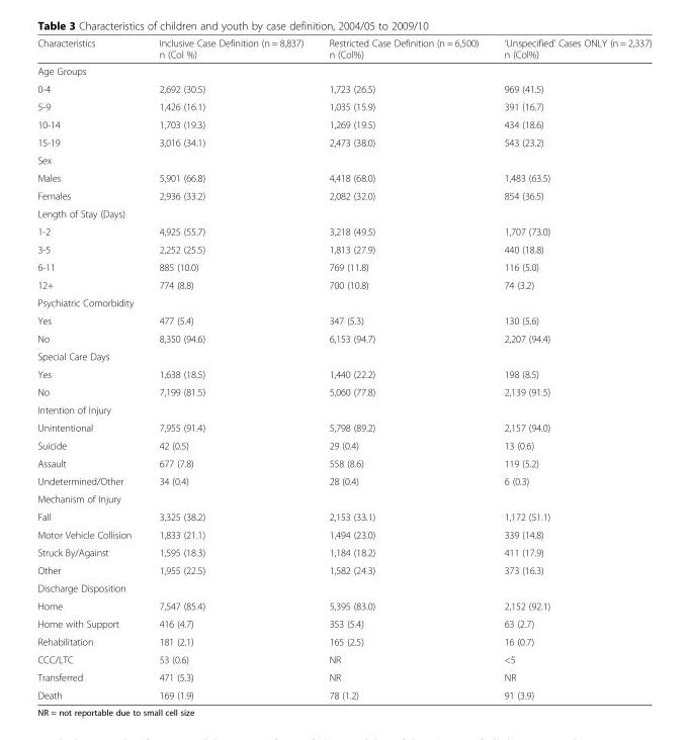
<table><thead><tr><td>Characteristics</td><td>Inclusive Case Definition (n = 8,837) n (Col %)</td><td>Restricted Case Definition (n = 6,500) n (Col%)</td><td>‘Unspecified’ Cases ONLY (n = 2,337) n (Col%)</td></tr></thead><tbody><tr><td colspan="4">Age Groups</td></tr><tr><td>0-4</td><td>2,692 (30.5)</td><td>1,723 (26.5)</td><td>969 (41.5)</td></tr><tr><td>5-9</td><td>1,426 (16.1)</td><td>1,035 (15.9)</td><td>391 (16.7)</td></tr><tr><td>10-14</td><td>1,703 (19.3)</td><td>1,269 (19.5)</td><td>434 (18.6)</td></tr><tr><td>15-19</td><td>3,016 (34.1)</td><td>2,473 (38.0)</td><td>543 (23.2)</td></tr><tr><td colspan="4">Sex</td></tr><tr><td>Males</td><td>5,901 (66.8)</td><td>4,418 (68.0)</td><td>1,483 (63.5)</td></tr><tr><td>Females</td><td>2,936 (33.2)</td><td>2,082 (32.0)</td><td>854 (36.5)</td></tr><tr><td colspan="4">Length of Stay (Days)</td></tr><tr><td>1-2</td><td>4,925 (55.7)</td><td>3,218 (49.5)</td><td>1,707 (73.0)</td></tr><tr><td>3-5</td><td>2,252 (25.5)</td><td>1,813 (27.9)</td><td>440 (18.8)</td></tr><tr><td>6-11</td><td>885 (10.0)</td><td>769 (11.8)</td><td>116 (5.0)</td></tr><tr><td>12+</td><td>774 (8.8)</td><td>700 (10.8)</td><td>74 (3.2)</td></tr><tr><td colspan="4">Psychiatric Comorbidity</td></tr><tr><td>Yes</td><td>477 (5.4)</td><td>347 (5.3)</td><td>130 (5.6)</td></tr><tr><td>No</td><td>8,350 (94.6)</td><td>6,153 (94.7)</td><td>2,207 (94.4)</td></tr><tr><td colspan="4">Special Care Days</td></tr><tr><td>Yes</td><td>1,638 (18.5)</td><td>1,440 (22.2)</td><td>198 (8.5)</td></tr><tr><td>No</td><td>7,199 (81.5)</td><td>5,060 (77.8)</td><td>2,139 (91.5)</td></tr><tr><td colspan="4">Intention of Injury</td></tr><tr><td>Unintentional</td><td>7,955 (91.4)</td><td>5,798 (89.2)</td><td>2,157 (94.0)</td></tr><tr><td>Suicide</td><td>42 (0.5)</td><td>29 (0.4)</td><td>13 (0.6)</td></tr><tr><td>Assault</td><td>677 (7.8)</td><td>558 (8.6)</td><td>119 (5.2)</td></tr><tr><td>Undetermined/Other</td><td>34 (0.4)</td><td>28 (0.4)</td><td>6 (0.3)</td></tr><tr><td colspan="4">Mechanism of Injury</td></tr><tr><td>Fall</td><td>3,325 (38.2)</td><td>2,153 (33.1)</td><td>1,172 (51.1)</td></tr><tr><td>Motor Vehicle Collision</td><td>1,833 (21.1)</td><td>1,494 (23.0)</td><td>339 (14.8)</td></tr><tr><td>Struck By/Against</td><td>1,595 (18.3)</td><td>1,184 (18.2)</td><td>411 (17.9)</td></tr><tr><td>Other</td><td>1,955 (22.5)</td><td>1,582 (24.3)</td><td>373 (16.3)</td></tr><tr><td colspan="4">Discharge Disposition</td></tr><tr><td>Home</td><td>7,547 (85.4)</td><td>5,395 (83.0)</td><td>2,152 (92.1)</td></tr><tr><td>Home with Support</td><td>416 (4.7)</td><td>353 (5.4)</td><td>63 (2.7)</td></tr><tr><td>Rehabilitation</td><td>181 (2.1)</td><td>165 (2.5)</td><td>16 (0.7)</td></tr><tr><td>CCC/LTC</td><td>53 (0.6)</td><td>NR</td><td>&lt;5</td></tr><tr><td>Transferred</td><td>471 (5.3)</td><td>NR</td><td>NR</td></tr><tr><td>Death</td><td>169 (1.9)</td><td>78 (1.2)</td><td>91 (3.9)</td></tr></tbody></table>